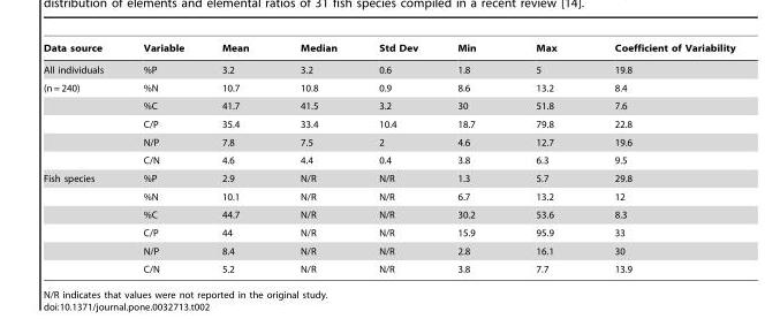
<table><thead><tr><td>Data source</td><td>Variable</td><td>Mean</td><td>Median</td><td>Std Dev</td><td>Min</td><td>Max</td><td>Coefficient of Variability</td></tr></thead><tbody><tr><td>All individuals</td><td>%P</td><td>3.2</td><td>3.2</td><td>0.6</td><td>1.8</td><td>5</td><td>19.8</td></tr><tr><td rowspan="5">(n = 240)</td><td>%N</td><td>10.7</td><td>10.8</td><td>0.9</td><td>8.6</td><td>13.2</td><td>8.4</td></tr><tr><td>%C</td><td>41.7</td><td>41.5</td><td>3.2</td><td>30</td><td>51.8</td><td>7.6</td></tr><tr><td>C/P</td><td>35.4</td><td>33.4</td><td>10.4</td><td>18.7</td><td>79.8</td><td>22.8</td></tr><tr><td>N/P</td><td>7.8</td><td>7.5</td><td>2</td><td>4.6</td><td>12.7</td><td>19.6</td></tr><tr><td>C/N</td><td>4.6</td><td>4.4</td><td>0.4</td><td>3.8</td><td>6.3</td><td>9.5</td></tr><tr><td rowspan="6">Fish species</td><td>%P</td><td>2.9</td><td>N/R</td><td>N/R</td><td>1.3</td><td>5.7</td><td>29.8</td></tr><tr><td>%N</td><td>10.1</td><td>N/R</td><td>N/R</td><td>6.7</td><td>13.2</td><td>12</td></tr><tr><td>%C</td><td>44.7</td><td>N/R</td><td>N/R</td><td>30.2</td><td>53.6</td><td>8.3</td></tr><tr><td>C/P</td><td>44</td><td>N/R</td><td>N/R</td><td>15.9</td><td>95.9</td><td>33</td></tr><tr><td>N/P</td><td>8.4</td><td>N/R</td><td>N/R</td><td>2.8</td><td>16.1</td><td>30</td></tr><tr><td>C/N</td><td>5.2</td><td>N/R</td><td>N/R</td><td>3.8</td><td>7.7</td><td>13.9</td></tr></tbody></table>